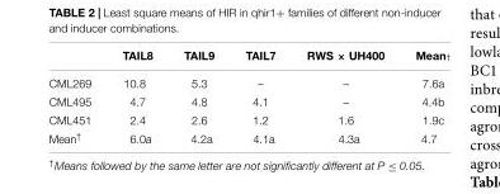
<table><thead><tr><td></td><td>TAIL8</td><td>TAIL9</td><td>TAIL7</td><td>RWS × UH400</td><td>Mean†</td></tr></thead><tbody><tr><td>CML269</td><td>10.8</td><td>5.3</td><td>–</td><td>–</td><td>7.6a</td></tr><tr><td>CML495</td><td>4.7</td><td>4.8</td><td>4.1</td><td>–</td><td>4.4b</td></tr><tr><td>CML451</td><td>2.4</td><td>2.6</td><td>1.2</td><td>1.6</td><td>1.9c</td></tr><tr><td>Mean<sup>†</sup></td><td>6.0a</td><td>4.2a</td><td>4.1a</td><td>4.3a</td><td>4.7</td></tr></tbody></table>